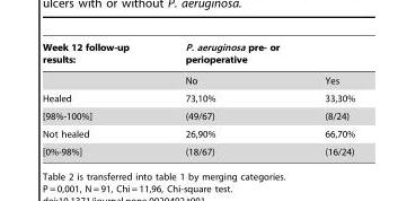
<table><thead><tr><td rowspan="2">Week 12 follow-up results:</td><td colspan="2">P. aeruginosa pre- or perioperative</td></tr><tr><td>No</td><td>Yes</td></tr></thead><tbody><tr><td>Healed</td><td>73,10%</td><td>33,30%</td></tr><tr><td>[98%-100%]</td><td>(49/67)</td><td>(8/24)</td></tr><tr><td>Not healed</td><td>26,90%</td><td>66,70%</td></tr><tr><td>[0%-98%]</td><td>(18/67)</td><td>(16/24)</td></tr></tbody></table>